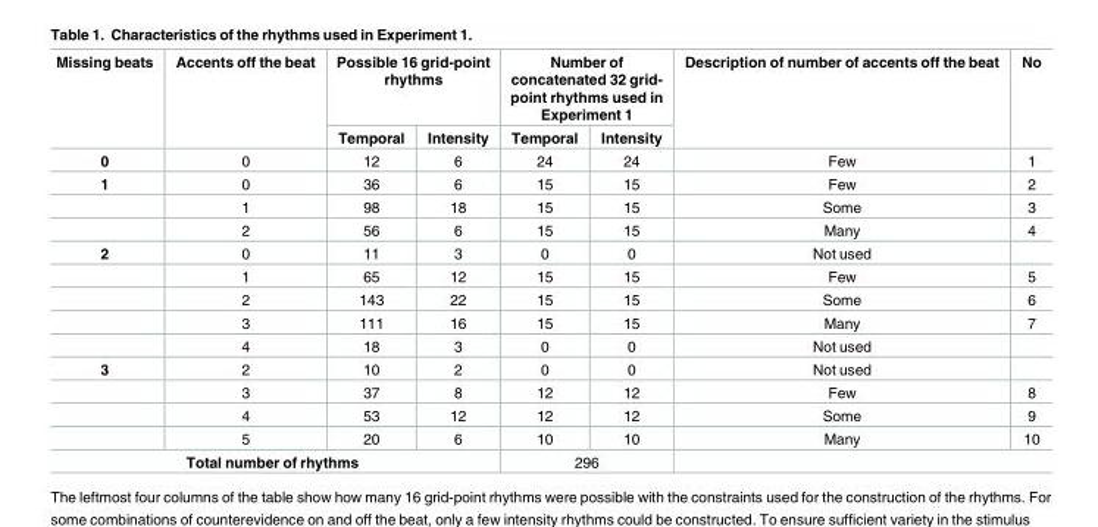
<table><thead><tr><td rowspan="2">Missing beats</td><td rowspan="2">Accents off the beat</td><td colspan="2">Possible 16 grid-point rhythms</td><td colspan="2">Number of concatenated 32 grid- point rhythms used in Experiment 1</td><td rowspan="2">Description of number of accents off the beat</td><td rowspan="2">No</td></tr><tr><td>Temporal</td><td>Intensity</td><td>Temporal</td><td>Intensity</td></tr></thead><tbody><tr><td>0</td><td>0</td><td>12</td><td>6</td><td>24</td><td>24</td><td>Few</td><td>1</td></tr><tr><td rowspan="3">1</td><td>0</td><td>36</td><td>6</td><td>15</td><td>15</td><td>Few</td><td>2</td></tr><tr><td>1</td><td>98</td><td>18</td><td>15</td><td>15</td><td>Some</td><td>3</td></tr><tr><td>2</td><td>56</td><td>6</td><td>15</td><td>15</td><td>Many</td><td>4</td></tr><tr><td rowspan="5">2</td><td>0</td><td>11</td><td>3</td><td>0</td><td>0</td><td>Not used</td><td></td></tr><tr><td>1</td><td>65</td><td>12</td><td>15</td><td>15</td><td>Few</td><td>5</td></tr><tr><td>2</td><td>143</td><td>22</td><td>15</td><td>15</td><td>Some</td><td>6</td></tr><tr><td>3</td><td>111</td><td>16</td><td>15</td><td>15</td><td>Many</td><td>7</td></tr><tr><td>4</td><td>18</td><td>3</td><td>0</td><td>0</td><td>Not used</td><td></td></tr><tr><td rowspan="4">3</td><td>2</td><td>10</td><td>2</td><td>0</td><td>0</td><td>Not used</td><td></td></tr><tr><td>3</td><td>37</td><td>8</td><td>12</td><td>12</td><td>Few</td><td>8</td></tr><tr><td>4</td><td>53</td><td>12</td><td>12</td><td>12</td><td>Some</td><td>9</td></tr><tr><td>5</td><td>20</td><td>6</td><td>10</td><td>10</td><td>Many</td><td>10</td></tr><tr><td colspan="4">Total number of rhythms</td><td colspan="2">296</td><td colspan="2"></td></tr></tbody></table>